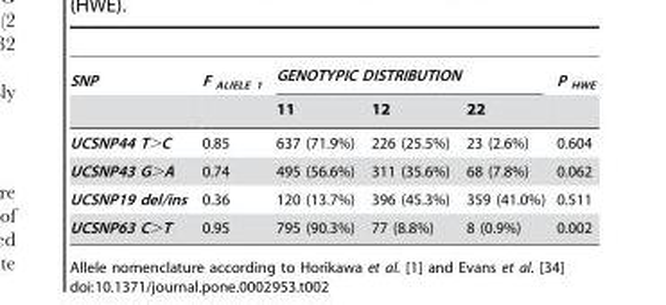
<table><thead><tr><td rowspan="2">SNP</td><td rowspan="2">F <sub>ALlELE 1</sub></td><td colspan="3">GENOTYPIC DISTRIBUTION</td><td rowspan="2">P <sub>HWE</sub></td></tr><tr><td>11</td><td>12</td><td>22</td></tr></thead><tbody><tr><td>UCSNP44 T&gt;C</td><td>0.85</td><td>637 (71.9%)</td><td>226 (25.5%)</td><td>23 (2.6%)</td><td>0.604</td></tr><tr><td>UCSNP43 G&gt;A</td><td>0.74</td><td>495 (56.6%)</td><td>311 (35.6%)</td><td>68 (7.8%)</td><td>0.062</td></tr><tr><td>UCSNP19 del/ins</td><td>0.36</td><td>120 (13.7%)</td><td>396 (45.3%)</td><td>359 (41.0%)</td><td>0.511</td></tr><tr><td>UCSNP63 C&gt;T</td><td>0.95</td><td>795 (90.3%)</td><td>77 (8.8%)</td><td>8 (0.9%)</td><td>0.002</td></tr></tbody></table>